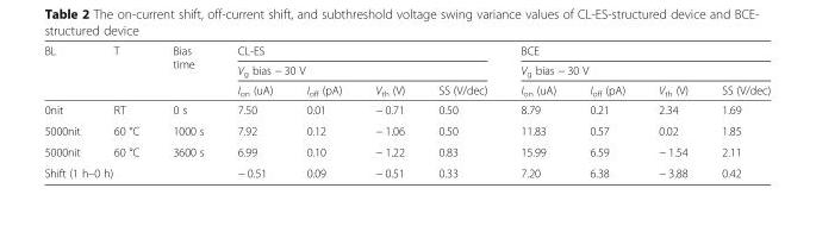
<table><thead><tr><td rowspan="3">BL</td><td rowspan="3">T</td><td rowspan="3">Bias time</td><td rowspan="2" colspan="4">CL-ES V<sub>g</sub> bias − 30 V</td><td rowspan="2" colspan="4">BCE V<sub>g</sub> bias − 30 V</td></tr><tr></tr><tr><td>I<sub>on</sub> (uA)</td><td>I<sub>off</sub> (pA)</td><td>V<sub>th</sub> (V)</td><td>SS (V/dec)</td><td>I<sub>on</sub> (uA)</td><td>I<sub>off</sub> (pA)</td><td>V<sub>th</sub> (V)</td><td>SS (V/dec)</td></tr></thead><tbody><tr><td>0nit</td><td>RT</td><td>0 s</td><td>7.50</td><td>0.01</td><td>− 0.71</td><td>0.50</td><td>8.79</td><td>0.21</td><td>2.34</td><td>1.69</td></tr><tr><td>5000nit</td><td>60 °C</td><td>1000 s</td><td>7.92</td><td>0.12</td><td>− 1.06</td><td>0.50</td><td>11.83</td><td>0.57</td><td>0.02</td><td>1.85</td></tr><tr><td>5000nit</td><td>60 °C</td><td>3600 s</td><td>6.99</td><td>0.10</td><td>− 1.22</td><td>0.83</td><td>15.99</td><td>6.59</td><td>− 1.54</td><td>2.11</td></tr><tr><td colspan="3">Shift (1 h–0 h)</td><td>− 0.51</td><td>0.09</td><td>− 0.51</td><td>0.33</td><td>7.20</td><td>6.38</td><td>− 3.88</td><td>0.42</td></tr></tbody></table>